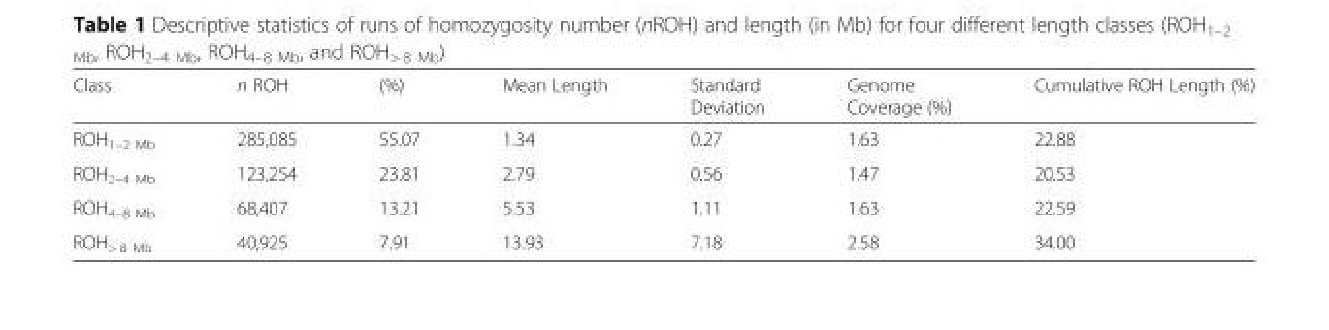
<table><thead><tr><td>Class</td><td>n ROH</td><td>(%)</td><td>Mean Length</td><td>Standard Deviation</td><td>Genome Coverage (%)</td><td>Cumulative ROH Length (%)</td></tr></thead><tbody><tr><td>ROH<sub>1–2 Mb</sub></td><td>285,085</td><td>55.07</td><td>1.34</td><td>0.27</td><td>1.63</td><td>22.88</td></tr><tr><td>ROH<sub>2–4 Mb</sub></td><td>123,254</td><td>23.81</td><td>2.79</td><td>0.56</td><td>1.47</td><td>20.53</td></tr><tr><td>ROH<sub>4–8 Mb</sub></td><td>68,407</td><td>13.21</td><td>5.53</td><td>1.11</td><td>1.63</td><td>22.59</td></tr><tr><td>ROH<sub>&gt; 8 Mb</sub></td><td>40,925</td><td>7.91</td><td>13.93</td><td>7.18</td><td>2.58</td><td>34.00</td></tr></tbody></table>